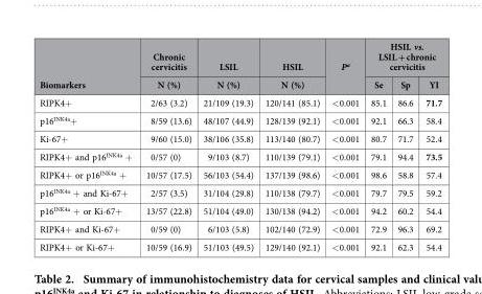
<table><thead><tr><td rowspan="2">Biomarkers</td><td rowspan="2">Chronic cervicitis N (%)</td><td rowspan="2">LSIL N (%)</td><td rowspan="2">HSIL N (%)</td><td rowspan="2">P<sup>a</sup></td><td colspan="3">HSIL vs. LSIL + chronic cervicitis</td></tr><tr><td>Se</td><td>Sp</td><td>YI</td></tr></thead><tbody><tr><td>RIPK4+</td><td>2/63 (3.2)</td><td>21/109 (19.3)</td><td>120/141 (85.1)</td><td>&lt; 0.001</td><td>85.1</td><td>86.6</td><td>71.7</td></tr><tr><td>p16<sup>INK4a</sup>+</td><td>8/59 (13.6)</td><td>48/107 (44.9)</td><td>128/139 (92.1)</td><td>&lt; 0.001</td><td>92.1</td><td>66.3</td><td>58.4</td></tr><tr><td>Ki-67+</td><td>9/60 (15.0)</td><td>38/106 (35.8)</td><td>113/140 (80.7)</td><td>&lt; 0.001</td><td>80.7</td><td>71.7</td><td>52.4</td></tr><tr><td>RIPK4+ and p16<sup>INK4a</sup> +</td><td>0/57 (0)</td><td>9/103 (8.7)</td><td>110/139 (79.1)</td><td>&lt; 0.001</td><td>79.1</td><td>94.4</td><td>73.5</td></tr><tr><td>RIPK4+ or p16<sup>INK4a</sup> +</td><td>10/57 (17.5)</td><td>56/103 (54.4)</td><td>137/139 (98.6)</td><td>&lt; 0.001</td><td>98.6</td><td>58.8</td><td>57.4</td></tr><tr><td>p16<sup>INK4a</sup> + and Ki-67+</td><td>2/57 (3.5)</td><td>31/104 (29.8)</td><td>110/138 (79.7)</td><td>&lt; 0.001</td><td>79.7</td><td>79.5</td><td>59.2</td></tr><tr><td>p16<sup>INK4a</sup> + or Ki-67+</td><td>13/57 (22.8)</td><td>51/104 (49.0)</td><td>130/138 (94.2)</td><td>&lt; 0.001</td><td>94.2</td><td>60.2</td><td>54.4</td></tr><tr><td>RIPK4+ and Ki-67+</td><td>0/59 (0)</td><td>6/103 (5.8)</td><td>102/140 (72.9)</td><td>&lt; 0.001</td><td>72.9</td><td>96.3</td><td>69.2</td></tr><tr><td>RIPK4+ or Ki-67+</td><td>10/59 (16.9)</td><td>51/103 (49.5)</td><td>129/140 (92.1)</td><td>&lt; 0.001</td><td>92.1</td><td>62.3</td><td>54.4</td></tr></tbody></table>